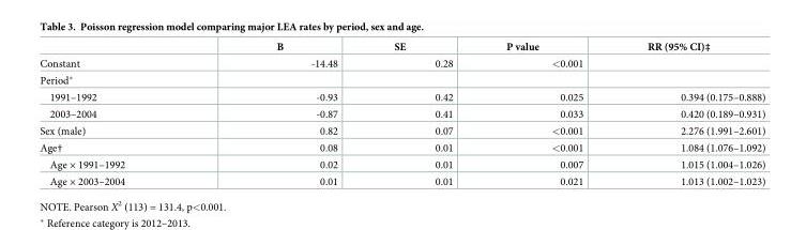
<table><thead><tr><td></td><td>Β</td><td>SE</td><td>P value</td><td>RR (95% CI)‡</td></tr></thead><tbody><tr><td>Constant</td><td>-14.48</td><td>0.28</td><td>&lt;0.001</td><td></td></tr><tr><td colspan="5">Period*</td></tr><tr><td>1991–1992</td><td>-0.93</td><td>0.42</td><td>0.025</td><td>0.394 (0.175–0.888)</td></tr><tr><td>2003–2004</td><td>-0.87</td><td>0.41</td><td>0.033</td><td>0.420 (0.189–0.931)</td></tr><tr><td>Sex (male)</td><td>0.82</td><td>0.07</td><td>&lt;0.001</td><td>2.276 (1.991–2.601)</td></tr><tr><td>Age†</td><td>0.08</td><td>0.01</td><td>&lt;0.001</td><td>1.084 (1.076–1.092)</td></tr><tr><td>Age × 1991–1992</td><td>0.02</td><td>0.01</td><td>0.007</td><td>1.015 (1.004–1.026)</td></tr><tr><td>Age × 2003–2004</td><td>0.01</td><td>0.01</td><td>0.021</td><td>1.013 (1.002–1.023)</td></tr></tbody></table>